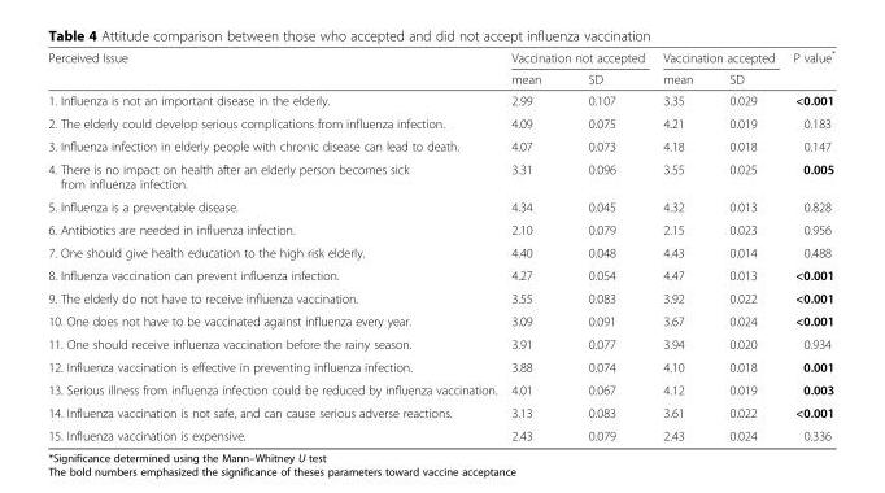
<table><thead><tr><td rowspan="2">Perceived Issue</td><td colspan="2">Vaccination not accepted</td><td colspan="2">Vaccination accepted</td><td rowspan="2">P value*</td></tr><tr><td>mean</td><td>SD</td><td>mean</td><td>SD</td></tr></thead><tbody><tr><td>1. Influenza is not an important disease in the elderly.</td><td>2.99</td><td>0.107</td><td>3.35</td><td>0.029</td><td>&lt;0.001</td></tr><tr><td>2. The elderly could develop serious complications from influenza infection.</td><td>4.09</td><td>0.075</td><td>4.21</td><td>0.019</td><td>0.183</td></tr><tr><td>3. Influenza infection in elderly people with chronic disease can lead to death.</td><td>4.07</td><td>0.073</td><td>4.18</td><td>0.018</td><td>0.147</td></tr><tr><td>4. There is no impact on health after an elderly person becomes sick from influenza infection.</td><td>3.31</td><td>0.096</td><td>3.55</td><td>0.025</td><td>0.005</td></tr><tr><td>5. Influenza is a preventable disease.</td><td>4.34</td><td>0.045</td><td>4.32</td><td>0.013</td><td>0.828</td></tr><tr><td>6. Antibiotics are needed in influenza infection.</td><td>2.10</td><td>0.079</td><td>2.15</td><td>0.023</td><td>0.956</td></tr><tr><td>7. One should give health education to the high risk elderly.</td><td>4.40</td><td>0.048</td><td>4.43</td><td>0.014</td><td>0.488</td></tr><tr><td>8. Influenza vaccination can prevent influenza infection.</td><td>4.27</td><td>0.054</td><td>4.47</td><td>0.013</td><td>&lt;0.001</td></tr><tr><td>9. The elderly do not have to receive influenza vaccination.</td><td>3.55</td><td>0.083</td><td>3.92</td><td>0.022</td><td>&lt;0.001</td></tr><tr><td>10. One does not have to be vaccinated against influenza every year.</td><td>3.09</td><td>0.091</td><td>3.67</td><td>0.024</td><td>&lt;0.001</td></tr><tr><td>11. One should receive influenza vaccination before the rainy season.</td><td>3.91</td><td>0.077</td><td>3.94</td><td>0.020</td><td>0.934</td></tr><tr><td>12. Influenza vaccination is effective in preventing influenza infection.</td><td>3.88</td><td>0.074</td><td>4.10</td><td>0.018</td><td>0.001</td></tr><tr><td>13. Serious illness from influenza infection could be reduced by influenza vaccination.</td><td>4.01</td><td>0.067</td><td>4.12</td><td>0.019</td><td>0.003</td></tr><tr><td>14. Influenza vaccination is not safe, and can cause serious adverse reactions.</td><td>3.13</td><td>0.083</td><td>3.61</td><td>0.022</td><td>&lt;0.001</td></tr><tr><td>15. Influenza vaccination is expensive.</td><td>2.43</td><td>0.079</td><td>2.43</td><td>0.024</td><td>0.336</td></tr></tbody></table>